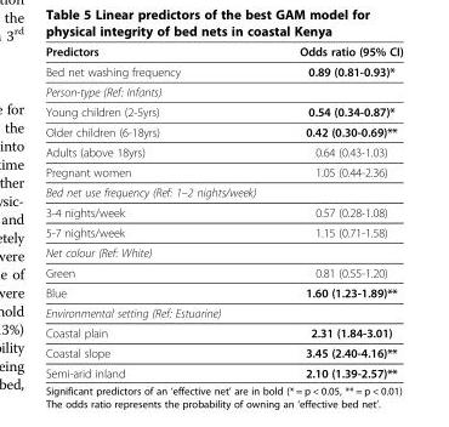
<table><thead><tr><td>Predictors</td><td>Odds ratio (95% CI)</td></tr></thead><tbody><tr><td>Bed net washing frequency</td><td>0.89 (0.81-0.93)*</td></tr><tr><td colspan="2">Person-type (Ref: Infants)</td></tr><tr><td>Young children (2-5yrs)</td><td>0.54 (0.34-0.87)*</td></tr><tr><td>Older children (6-18yrs)</td><td>0.42 (0.30-0.69)**</td></tr><tr><td>Adults (above 18yrs)</td><td>0.64 (0.43-1.03)</td></tr><tr><td>Pregnant women</td><td>1.05 (0.44-2.36)</td></tr><tr><td colspan="2">Bed net use frequency (Ref: 1–2 nights/week)</td></tr><tr><td>3-4 nights/week</td><td>0.57 (0.28-1.08)</td></tr><tr><td>5-7 nights/week</td><td>1.15 (0.71-1.58)</td></tr><tr><td colspan="2">Net colour (Ref: White)</td></tr><tr><td>Green</td><td>0.81 (0.55-1.20)</td></tr><tr><td>Blue</td><td>1.60 (1.23-1.89)**</td></tr><tr><td colspan="2">Environmental setting (Ref: Estuarine)</td></tr><tr><td>Coastal plain</td><td>2.31 (1.84-3.01)</td></tr><tr><td>Coastal slope</td><td>3.45 (2.40-4.16)**</td></tr><tr><td>Semi-arid inland</td><td>2.10 (1.39-2.57)**</td></tr></tbody></table>